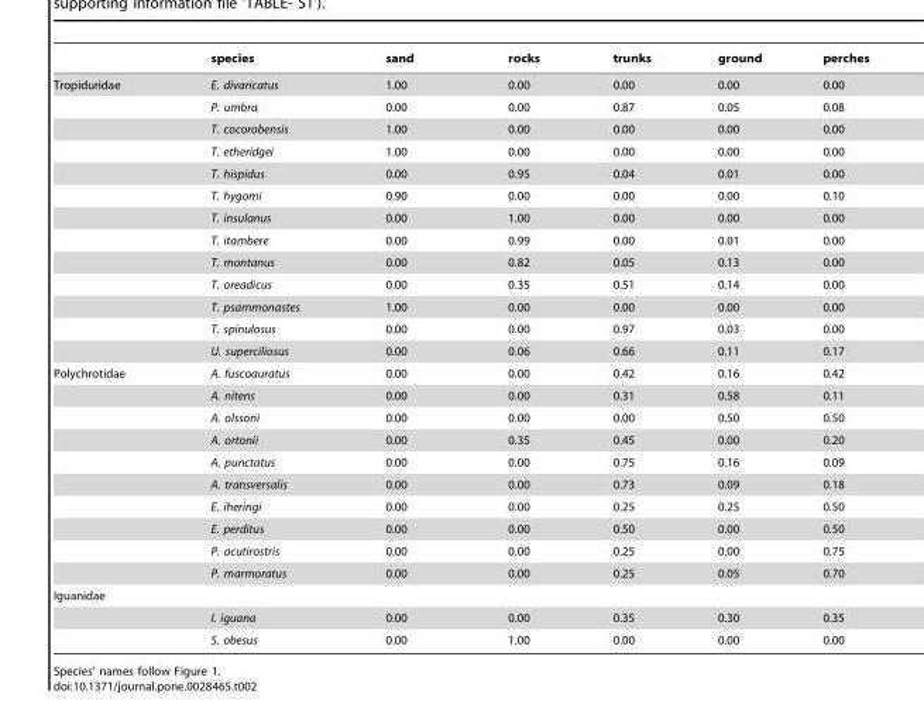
<table><thead><tr><td></td><td>species</td><td>sand</td><td>rocks</td><td>trunks</td><td>ground</td><td>perches</td></tr></thead><tbody><tr><td rowspan="13">Tropiduridae</td><td>E. divaricatus</td><td>1.00</td><td>0.00</td><td>0.00</td><td>0.00</td><td>0.00</td></tr><tr><td>P. umbra</td><td>0.00</td><td>0.00</td><td>0.87</td><td>0.05</td><td>0.08</td></tr><tr><td>T. cocorobensis</td><td>1.00</td><td>0.00</td><td>0.00</td><td>0.00</td><td>0.00</td></tr><tr><td>T. etheridgei</td><td>1.00</td><td>0.00</td><td>0.00</td><td>0.00</td><td>0.00</td></tr><tr><td>T. hispidus</td><td>0.00</td><td>0.95</td><td>0.04</td><td>0.01</td><td>0.00</td></tr><tr><td>T. hygomi</td><td>0.90</td><td>0.00</td><td>0.00</td><td>0.00</td><td>0.10</td></tr><tr><td>T. insulanus</td><td>0.00</td><td>1.00</td><td>0.00</td><td>0.00</td><td>0.00</td></tr><tr><td>T. itambere</td><td>0.00</td><td>0.99</td><td>0.00</td><td>0.01</td><td>0.00</td></tr><tr><td>T. montanus</td><td>0.00</td><td>0.82</td><td>0.05</td><td>0.13</td><td>0.00</td></tr><tr><td>T. oreadicus</td><td>0.00</td><td>0.35</td><td>0.51</td><td>0.14</td><td>0.00</td></tr><tr><td>T. psammonastes</td><td>1.00</td><td>0.00</td><td>0.00</td><td>0.00</td><td>0.00</td></tr><tr><td>T. spinulosus</td><td>0.00</td><td>0.00</td><td>0.97</td><td>0.03</td><td>0.00</td></tr><tr><td>U. superciliosus</td><td>0.00</td><td>0.06</td><td>0.66</td><td>0.11</td><td>0.17</td></tr><tr><td rowspan="10">Polychrotidae</td><td>A. fuscoauratus</td><td>0.00</td><td>0.00</td><td>0.42</td><td>0.16</td><td>0.42</td></tr><tr><td>A. nitens</td><td>0.00</td><td>0.00</td><td>0.31</td><td>0.58</td><td>0.11</td></tr><tr><td>A. olssoni</td><td>0.00</td><td>0.00</td><td>0.00</td><td>0.50</td><td>0.50</td></tr><tr><td>A. ortonii</td><td>0.00</td><td>0.35</td><td>0.45</td><td>0.00</td><td>0.20</td></tr><tr><td>A. punctatus</td><td>0.00</td><td>0.00</td><td>0.75</td><td>0.16</td><td>0.09</td></tr><tr><td>A. transversalis</td><td>0.00</td><td>0.00</td><td>0.73</td><td>0.09</td><td>0.18</td></tr><tr><td>E. iheringi</td><td>0.00</td><td>0.00</td><td>0.25</td><td>0.25</td><td>0.50</td></tr><tr><td>E. perditus</td><td>0.00</td><td>0.00</td><td>0.50</td><td>0.00</td><td>0.50</td></tr><tr><td>P. acutirostris</td><td>0.00</td><td>0.00</td><td>0.25</td><td>0.00</td><td>0.75</td></tr><tr><td>P. marmoratus</td><td>0.00</td><td>0.00</td><td>0.25</td><td>0.05</td><td>0.70</td></tr><tr><td colspan="7">Iguanidae</td></tr><tr><td></td><td>I. iguana</td><td>0.00</td><td>0.00</td><td>0.35</td><td>0.30</td><td>0.35</td></tr><tr><td></td><td>S. obesus</td><td>0.00</td><td>1.00</td><td>0.00</td><td>0.00</td><td>0.00</td></tr></tbody></table>